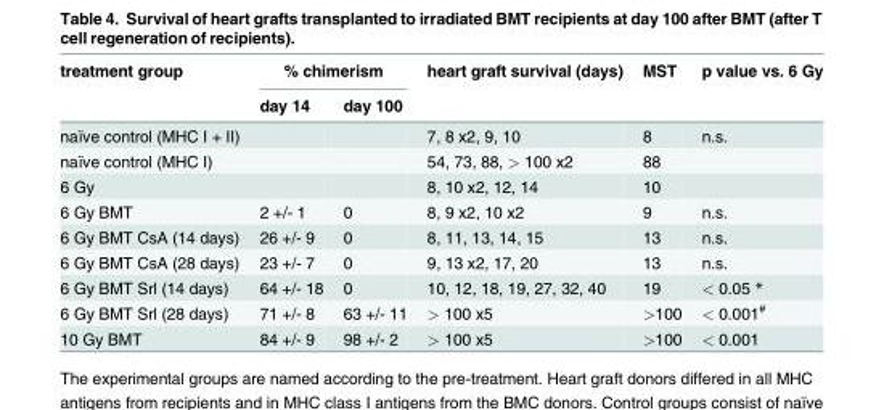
<table><thead><tr><td rowspan="2">treatment group</td><td colspan="2">% chimerism</td><td rowspan="2">heart graft survival (days)</td><td rowspan="2">MST</td><td rowspan="2">p value vs. 6 Gy</td></tr><tr><td>day 14</td><td>day 100</td></tr></thead><tbody><tr><td>naïve control (MHC I + II)</td><td></td><td></td><td>7, 8 x2, 9, 10</td><td>8</td><td>n.s.</td></tr><tr><td>naïve control (MHC I)</td><td></td><td></td><td>54, 73, 88, &gt; 100 x2</td><td>88</td><td></td></tr><tr><td>6 Gy</td><td></td><td></td><td>8, 10 x2, 12, 14</td><td>10</td><td></td></tr><tr><td>6 Gy BMT</td><td>2 +/- 1</td><td>0</td><td>8, 9 x2, 10 x2</td><td>9</td><td>n.s.</td></tr><tr><td>6 Gy BMT CsA (14 days)</td><td>26 +/- 9</td><td>0</td><td>8, 11, 13, 14, 15</td><td>13</td><td>n.s.</td></tr><tr><td>6 Gy BMT CsA (28 days)</td><td>23 +/- 7</td><td>0</td><td>9, 13 x2, 17, 20</td><td>13</td><td>n.s.</td></tr><tr><td>6 Gy BMT Srl (14 days)</td><td>64 +/- 18</td><td>0</td><td>10, 12, 18, 19, 27, 32, 40</td><td>19</td><td>&lt; 0.05 *</td></tr><tr><td>6 Gy BMT Srl (28 days)</td><td>71 +/- 8</td><td>63 +/- 11</td><td>&gt; 100 x5</td><td>&gt;100</td><td>&lt; 0.001<sup>#</sup></td></tr><tr><td>10 Gy BMT</td><td>84 +/- 9</td><td>98 +/- 2</td><td>&gt; 100 x5</td><td>&gt;100</td><td>&lt; 0.001</td></tr></tbody></table>